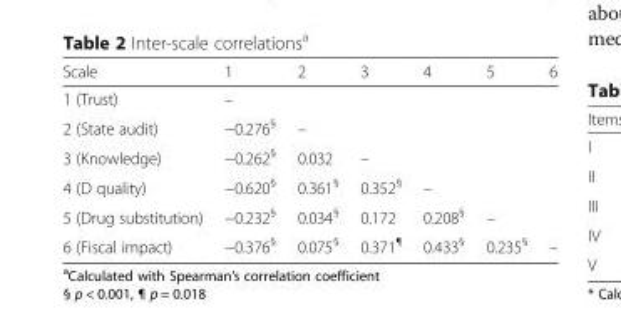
<table><thead><tr><td>Scale</td><td>1</td><td>2</td><td>3</td><td>4</td><td>5</td><td>6</td></tr></thead><tbody><tr><td>1 (Trust)</td><td>–</td><td></td><td></td><td></td><td></td><td></td></tr><tr><td>2 (State audit)</td><td>−0.276<sup>§</sup></td><td>–</td><td></td><td></td><td></td><td></td></tr><tr><td>3 (Knowledge)</td><td>−0.262<sup>§</sup></td><td>0.032</td><td>–</td><td></td><td></td><td></td></tr><tr><td>4 (D quality)</td><td>−0.620<sup>§</sup></td><td>0.361<sup>§</sup></td><td>0.352<sup>§</sup></td><td>–</td><td></td><td></td></tr><tr><td>5 (Drug substitution)</td><td>−0.232<sup>§</sup></td><td>0.034<sup>§</sup></td><td>0.172</td><td>0.208<sup>§</sup></td><td>–</td><td></td></tr><tr><td>6 (Fiscal impact)</td><td>−0.376<sup>§</sup></td><td>0.075<sup>§</sup></td><td>0.371<sup>¶</sup></td><td>0.433<sup>§</sup></td><td>0.235<sup>§</sup></td><td>–</td></tr></tbody></table>